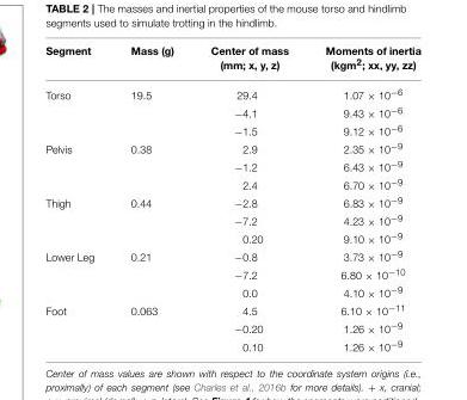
<table><thead><tr><td>Segment</td><td>Mass (g)</td><td>Center of mass (mm; x, y, z)</td><td>Moments of inertia (kgm<sup>2</sup>; xx, yy, zz)</td></tr></thead><tbody><tr><td rowspan="3">Torso</td><td>19.5</td><td>29.4</td><td>1.07 × 10<sup>−6</sup></td></tr><tr><td></td><td>−4.1</td><td>9.43 × 10<sup>−6</sup></td></tr><tr><td></td><td>−1.5</td><td>9.12 × 10<sup>−6</sup></td></tr><tr><td rowspan="3">Pelvis</td><td>0.38</td><td>2.9</td><td>2.35 × 10<sup>−9</sup></td></tr><tr><td></td><td>−1.2</td><td>6.43 × 10<sup>−9</sup></td></tr><tr><td></td><td>2.4</td><td>6.70 × 10<sup>−9</sup></td></tr><tr><td rowspan="3">Thigh</td><td>0.44</td><td>−2.8</td><td>6.83 × 10<sup>−9</sup></td></tr><tr><td></td><td>−7.2</td><td>4.23 × 10<sup>−9</sup></td></tr><tr><td></td><td>0.20</td><td>9.10 × 10<sup>−9</sup></td></tr><tr><td rowspan="3">Lower Leg</td><td>0.21</td><td>−0.8</td><td>3.73 × 10<sup>−9</sup></td></tr><tr><td></td><td>−7.2</td><td>6.80 × 10<sup>−10</sup></td></tr><tr><td></td><td>0.0</td><td>4.10 × 10<sup>−9</sup></td></tr><tr><td rowspan="3">Foot</td><td>0.063</td><td>4.5</td><td>6.10 × 10<sup>−11</sup></td></tr><tr><td></td><td>−0.20</td><td>1.26 × 10<sup>−9</sup></td></tr><tr><td></td><td>0.10</td><td>1.26 × 10<sup>−9</sup></td></tr></tbody></table>